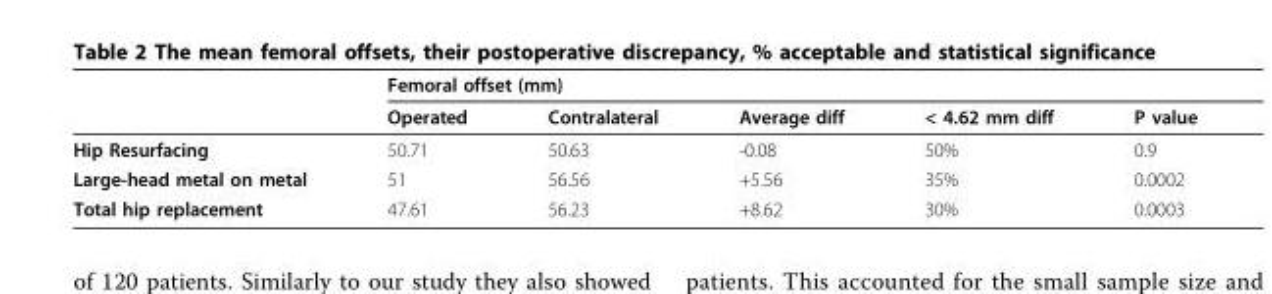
<table><thead><tr><td rowspan="2"></td><td colspan="2">Femoral offset (mm)</td><td rowspan="2">Average diff</td><td rowspan="2">&lt; 4.62 mm diff</td><td rowspan="2">P value</td></tr><tr><td>Operated</td><td>Contralateral</td></tr></thead><tbody><tr><td>Hip Resurfacing</td><td>50.71</td><td>50.63</td><td>-0.08</td><td>50%</td><td>0.9</td></tr><tr><td>Large-head metal on metal</td><td>51</td><td>56.56</td><td>+5.56</td><td>35%</td><td>0.0002</td></tr><tr><td>Total hip replacement</td><td>47.61</td><td>56.23</td><td>+8.62</td><td>30%</td><td>0.0003</td></tr></tbody></table>